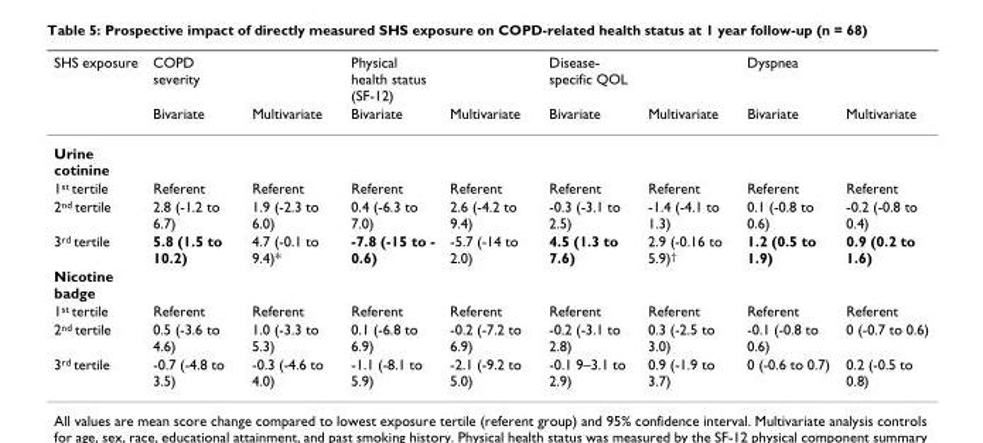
<table><thead><tr><td rowspan="2">SHS exposure</td><td rowspan="2">COPD severity Bivariate</td><td rowspan="2">Multivariate</td><td rowspan="2">Physical health status (SF-12) Bivariate</td><td rowspan="2">Multivariate</td><td rowspan="2">Disease- specific QOL Bivariate</td><td rowspan="2">Multivariate</td><td rowspan="2">Dyspnea Bivariate</td><td rowspan="2">Multivariate</td></tr><tr></tr></thead><tbody><tr><td colspan="9">Urine cotinine</td></tr><tr><td>1st tertile</td><td>Referent</td><td>Referent</td><td>Referent</td><td>Referent</td><td>Referent</td><td>Referent</td><td>Referent</td><td>Referent</td></tr><tr><td>2nd tertile</td><td>2.8 (-1.2 to 6.7)</td><td>1.9 (-2.3 to 6.0)</td><td>0.4 (-6.3 to 7.0)</td><td>2.6 (-4.2 to 9.4)</td><td>-0.3 (-3.1 to 2.5)</td><td>-1.4 (-4.1 to 1.3)</td><td>0.1 (-0.8 to 0.6)</td><td>-0.2 (-0.8 to 0.4)</td></tr><tr><td>3rd tertile</td><td>5.8 (1.5 to 10.2)</td><td>4.7 (-0.1 to 9.4)*</td><td>-7.8 (-15 to - 0.6)</td><td>-5.7 (-14 to 2.0)</td><td>4.5 (1.3 to 7.6)</td><td>2.9 (-0.16 to 5.9)†</td><td>1.2 (0.5 to 1.9)</td><td>0.9 (0.2 to 1.6)</td></tr><tr><td colspan="9">Nicotine badge</td></tr><tr><td>1st tertile</td><td>Referent</td><td>Referent</td><td>Referent</td><td>Referent</td><td>Referent</td><td>Referent</td><td>Referent</td><td>Referent</td></tr><tr><td>2nd tertile</td><td>0.5 (-3.6 to 4.6)</td><td>1.0 (-3.3 to 5.3)</td><td>0.1 (-6.8 to 6.9)</td><td>-0.2 (-7.2 to 6.9)</td><td>-0.2 (-3.1 to 2.8)</td><td>0.3 (-2.5 to 3.0)</td><td>-0.1 (-0.8 to 0.6)</td><td>0 (-0.7 to 0.6)</td></tr><tr><td>3rd tertile</td><td>-0.7 (-4.8 to 3.5)</td><td>-0.3 (-4.6 to 4.0)</td><td>-1.1 (-8.1 to 5.9)</td><td>-2.1 (-9.2 to 5.0)</td><td>-0.1 9–3.1 to 2.9)</td><td>0.9 (-1.9 to 3.7)</td><td>0 (-0.6 to 0.7)</td><td>0.2 (-0.5 to 0.8)</td></tr></tbody></table>